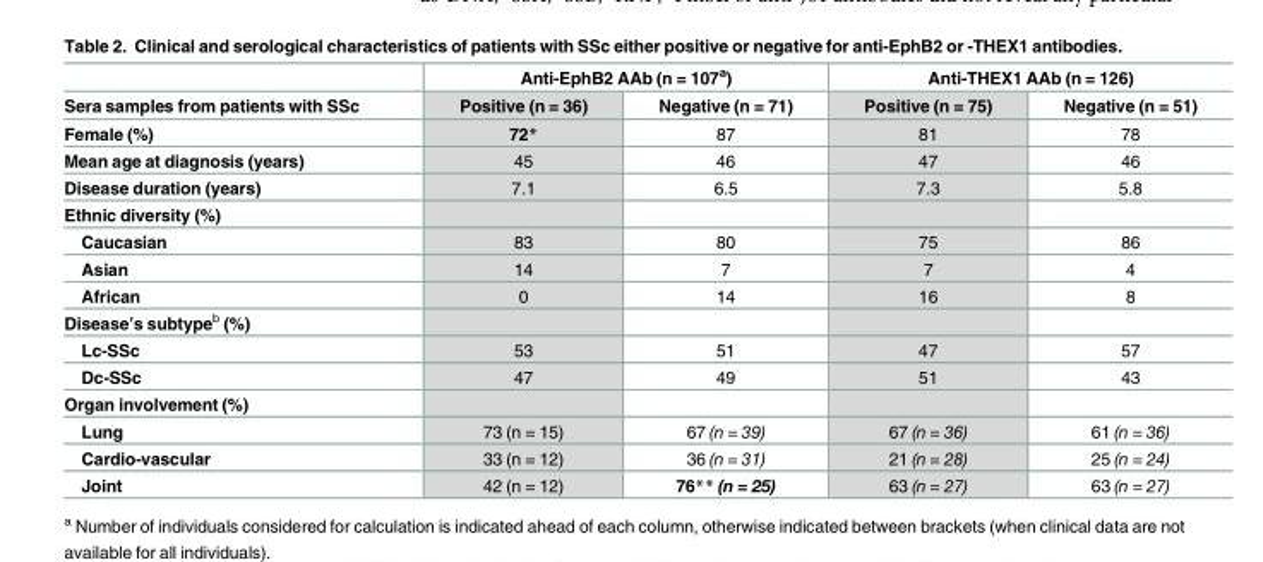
<table><thead><tr><td rowspan="2">Sera samples from patients with SSc</td><td colspan="2">Anti-EphB2 AAb (n = 107<sup>a</sup>)</td><td colspan="2">Anti-THEX1 AAb (n = 126)</td></tr><tr><td>Positive (n = 36)</td><td>Negative (n = 71)</td><td>Positive (n = 75)</td><td>Negative (n = 51)</td></tr></thead><tbody><tr><td>Female (%)</td><td>72*</td><td>87</td><td>81</td><td>78</td></tr><tr><td>Mean age at diagnosis (years)</td><td>45</td><td>46</td><td>47</td><td>46</td></tr><tr><td>Disease duration (years)</td><td>7.1</td><td>6.5</td><td>7.3</td><td>5.8</td></tr><tr><td colspan="5">Ethnic diversity (%)</td></tr><tr><td>Caucasian</td><td>83</td><td>80</td><td>75</td><td>86</td></tr><tr><td>Asian</td><td>14</td><td>7</td><td>7</td><td>4</td></tr><tr><td>African</td><td>0</td><td>14</td><td>16</td><td>8</td></tr><tr><td colspan="5">Disease’s subtype<sup>b</sup> (%)</td></tr><tr><td>Lc-SSc</td><td>53</td><td>51</td><td>47</td><td>57</td></tr><tr><td>Dc-SSc</td><td>47</td><td>49</td><td>51</td><td>43</td></tr><tr><td colspan="5">Organ involvement (%)</td></tr><tr><td>Lung</td><td>73 (n = 15)</td><td>67 (n = 39)</td><td>67 (n = 36)</td><td>61 (n = 36)</td></tr><tr><td>Cardio-vascular</td><td>33 (n = 12)</td><td>36 (n = 31)</td><td>21 (n = 28)</td><td>25 (n = 24)</td></tr><tr><td>Joint</td><td>42 (n = 12)</td><td>76** (n = 25)</td><td>63 (n = 27)</td><td>63 (n = 27)</td></tr></tbody></table>